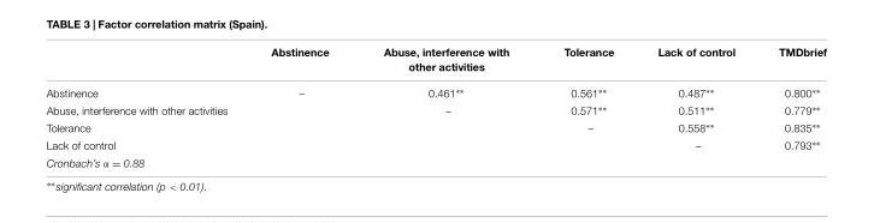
<table><thead><tr><td></td><td>Abstinence</td><td>Abuse, interference with other activities</td><td>Tolerance</td><td>Lack of control</td><td>TMDbrief</td></tr></thead><tbody><tr><td>Abstinence</td><td>–</td><td>0.461∗∗</td><td>0.561∗∗</td><td>0.487∗∗</td><td>0.800∗∗</td></tr><tr><td>Abuse, interference with other activities</td><td></td><td>–</td><td>0.571∗∗</td><td>0.511∗∗</td><td>0.779∗∗</td></tr><tr><td>Tolerance</td><td></td><td></td><td>–</td><td>0.558∗∗</td><td>0.835∗∗</td></tr><tr><td>Lack of control</td><td></td><td></td><td></td><td>–</td><td>0.793∗∗</td></tr><tr><td>Cronbach’s α = 0.88</td><td></td><td></td><td></td><td></td><td></td></tr></tbody></table>